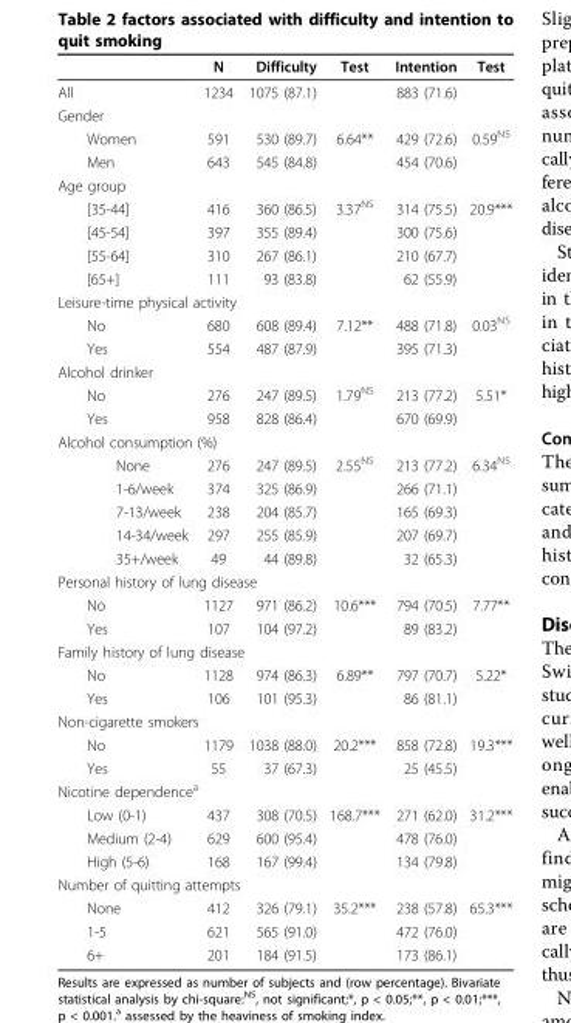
<table><thead><tr><td></td><td>N</td><td>Difficulty</td><td>Test</td><td>Intention</td><td>Test</td></tr></thead><tbody><tr><td>All</td><td>1234</td><td>1075 (87.1)</td><td></td><td>883 (71.6)</td><td></td></tr><tr><td colspan="6">Gender</td></tr><tr><td>Women</td><td>591</td><td>530 (89.7)</td><td>6.64**</td><td>429 (72.6)</td><td>0.59<sup>NS</sup></td></tr><tr><td>Men</td><td>643</td><td>545 (84.8)</td><td></td><td>454 (70.6)</td><td></td></tr><tr><td colspan="6">Age group</td></tr><tr><td>[35-44]</td><td>416</td><td>360 (86.5)</td><td>3.37<sup>NS</sup></td><td>314 (75.5)</td><td>20.9***</td></tr><tr><td>[45-54]</td><td>397</td><td>355 (89.4)</td><td></td><td>300 (75.6)</td><td></td></tr><tr><td>[55-64]</td><td>310</td><td>267 (86.1)</td><td></td><td>210 (67.7)</td><td></td></tr><tr><td>[65+]</td><td>111</td><td>93 (83.8)</td><td></td><td>62 (55.9)</td><td></td></tr><tr><td colspan="6">Leisure-time physical activity</td></tr><tr><td>No</td><td>680</td><td>608 (89.4)</td><td>7.12**</td><td>488 (71.8)</td><td>0.03<sup>NS</sup></td></tr><tr><td>Yes</td><td>554</td><td>487 (87.9)</td><td></td><td>395 (71.3)</td><td></td></tr><tr><td colspan="6">Alcohol drinker</td></tr><tr><td>No</td><td>276</td><td>247 (89.5)</td><td>1.79<sup>NS</sup></td><td>213 (77.2)</td><td>5.51*</td></tr><tr><td>Yes</td><td>958</td><td>828 (86.4)</td><td></td><td>670 (69.9)</td><td></td></tr><tr><td colspan="6">Alcohol consumption (%)</td></tr><tr><td>None</td><td>276</td><td>247 (89.5)</td><td>2.55<sup>NS</sup></td><td>213 (77.2)</td><td>6.34<sup>NS</sup></td></tr><tr><td>1-6/week</td><td>374</td><td>325 (86.9)</td><td></td><td>266 (71.1)</td><td></td></tr><tr><td>7-13/week</td><td>238</td><td>204 (85.7)</td><td></td><td>165 (69.3)</td><td></td></tr><tr><td>14-34/week</td><td>297</td><td>255 (85.9)</td><td></td><td>207 (69.7)</td><td></td></tr><tr><td>35+/week</td><td>49</td><td>44 (89.8)</td><td></td><td>32 (65.3)</td><td></td></tr><tr><td colspan="6">Personal history of lung disease</td></tr><tr><td>No</td><td>1127</td><td>971 (86.2)</td><td>10.6***</td><td>794 (70.5)</td><td>7.77**</td></tr><tr><td>Yes</td><td>107</td><td>104 (97.2)</td><td></td><td>89 (83.2)</td><td></td></tr><tr><td colspan="6">Family history of lung disease</td></tr><tr><td>No</td><td>1128</td><td>974 (86.3)</td><td>6.89**</td><td>797 (70.7)</td><td>5.22*</td></tr><tr><td>Yes</td><td>106</td><td>101 (95.3)</td><td></td><td>86 (81.1)</td><td></td></tr><tr><td colspan="6">Non-cigarette smokers</td></tr><tr><td>No</td><td>1179</td><td>1038 (88.0)</td><td>20.2***</td><td>858 (72.8)</td><td>19.3***</td></tr><tr><td>Yes</td><td>55</td><td>37 (67.3)</td><td></td><td>25 (45.5)</td><td></td></tr><tr><td colspan="6">Nicotine dependence<sup>a</sup></td></tr><tr><td>Low (0-1)</td><td>437</td><td>308 (70.5)</td><td>168.7***</td><td>271 (62.0)</td><td>31.2***</td></tr><tr><td>Medium (2-4)</td><td>629</td><td>600 (95.4)</td><td></td><td>478 (76.0)</td><td></td></tr><tr><td>High (5-6)</td><td>168</td><td>167 (99.4)</td><td></td><td>134 (79.8)</td><td></td></tr><tr><td colspan="6">Number of quitting attempts</td></tr><tr><td>None</td><td>412</td><td>326 (79.1)</td><td>35.2***</td><td>238 (57.8)</td><td>65.3***</td></tr><tr><td>1-5</td><td>621</td><td>565 (91.0)</td><td></td><td>472 (76.0)</td><td></td></tr><tr><td>6+</td><td>201</td><td>184 (91.5)</td><td></td><td>173 (86.1)</td><td></td></tr></tbody></table>